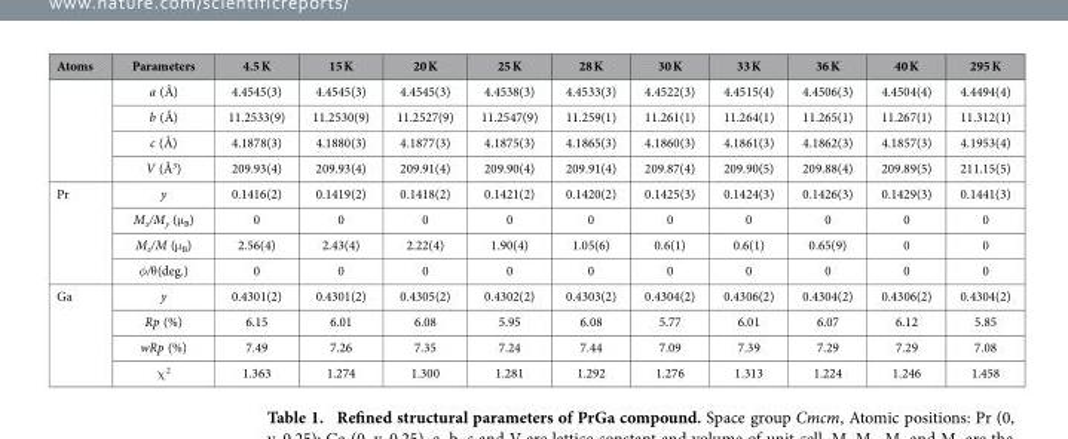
<table><thead><tr><td>Atoms</td><td>Parameters</td><td>4.5 K</td><td>15 K</td><td>20 K</td><td>25 K</td><td>28 K</td><td>30 K</td><td>33 K</td><td>36 K</td><td>40 K</td><td>295 K</td></tr></thead><tbody><tr><td rowspan="4"></td><td>a (Å)</td><td>4.4545(3)</td><td>4.4545(3)</td><td>4.4545(3)</td><td>4.4538(3)</td><td>4.4533(3)</td><td>4.4522(3)</td><td>4.4515(4)</td><td>4.4506(3)</td><td>4.4504(4)</td><td>4.4494(4)</td></tr><tr><td>b (Å)</td><td>11.2533(9)</td><td>11.2530(9)</td><td>11.2527(9)</td><td>11.2547(9)</td><td>11.259(1)</td><td>11.261(1)</td><td>11.264(1)</td><td>11.265(1)</td><td>11.267(1)</td><td>11.312(1)</td></tr><tr><td>c (Å)</td><td>4.1878(3)</td><td>4.1880(3)</td><td>4.1877(3)</td><td>4.1875(3)</td><td>4.1865(3)</td><td>4.1860(3)</td><td>4.1861(3)</td><td>4.1862(3)</td><td>4.1857(3)</td><td>4.1953(4)</td></tr><tr><td>V (Å<sup>3</sup>)</td><td>209.93(4)</td><td>209.93(4)</td><td>209.91(4)</td><td>209.90(4)</td><td>209.91(4)</td><td>209.87(4)</td><td>209.90(5)</td><td>209.88(4)</td><td>209.89(5)</td><td>211.15(5)</td></tr><tr><td rowspan="4">Pr</td><td>y</td><td>0.1416(2)</td><td>0.1419(2)</td><td>0.1418(2)</td><td>0.1421(2)</td><td>0.1420(2)</td><td>0.1425(3)</td><td>0.1424(3)</td><td>0.1426(3)</td><td>0.1429(3)</td><td>0.1441(3)</td></tr><tr><td>M<sub>x</sub>/M<sub>y</sub> (μ<sub>B</sub>)</td><td>0</td><td>0</td><td>0</td><td>0</td><td>0</td><td>0</td><td>0</td><td>0</td><td>0</td><td>0</td></tr><tr><td>M<sub>z</sub>/M (μ<sub>B</sub>)</td><td>2.56(4)</td><td>2.43(4)</td><td>2.22(4)</td><td>1.90(4)</td><td>1.05(6)</td><td>0.6(1)</td><td>0.6(1)</td><td>0.65(9)</td><td>0</td><td>0</td></tr><tr><td>φ/θ (deg.)</td><td>0</td><td>0</td><td>0</td><td>0</td><td>0</td><td>0</td><td>0</td><td>0</td><td>0</td><td>0</td></tr><tr><td rowspan="4">Ga</td><td>y</td><td>0.4301(2)</td><td>0.4301(2)</td><td>0.4305(2)</td><td>0.4302(2)</td><td>0.4303(2)</td><td>0.4304(2)</td><td>0.4306(2)</td><td>0.4304(2)</td><td>0.4306(2)</td><td>0.4304(2)</td></tr><tr><td>Rp (%)</td><td>6.15</td><td>6.01</td><td>6.08</td><td>5.95</td><td>6.08</td><td>5.77</td><td>6.01</td><td>6.07</td><td>6.12</td><td>5.85</td></tr><tr><td>wRp (%)</td><td>7.49</td><td>7.26</td><td>7.35</td><td>7.24</td><td>7.44</td><td>7.09</td><td>7.39</td><td>7.29</td><td>7.29</td><td>7.08</td></tr><tr><td>χ <sup>2</sup></td><td>1.363</td><td>1.274</td><td>1.300</td><td>1.281</td><td>1.292</td><td>1.276</td><td>1.313</td><td>1.224</td><td>1.246</td><td>1.458</td></tr></tbody></table>